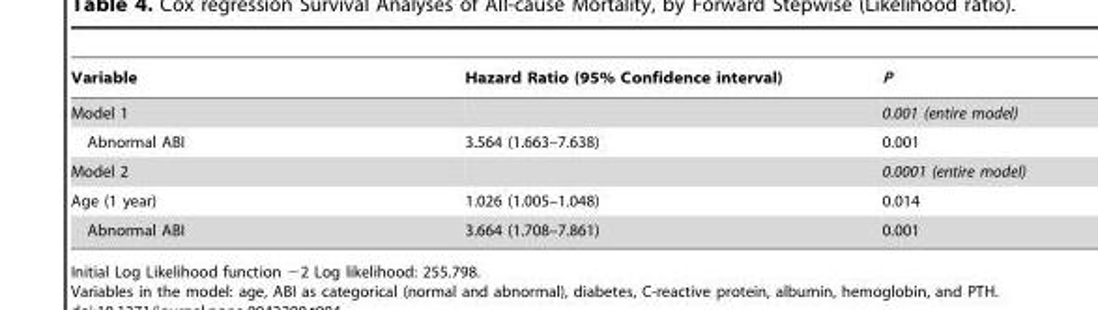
<table><thead><tr><td>Variable</td><td>Hazard Ratio (95% Confidence interval)</td><td>P</td></tr></thead><tbody><tr><td>Model 1</td><td></td><td>0.001 (entire model)</td></tr><tr><td>Abnormal ABI</td><td>3.564 (1.663–7.638)</td><td>0.001</td></tr><tr><td>Model 2</td><td></td><td>0.0001 (entire model)</td></tr><tr><td>Age (1 year)</td><td>1.026 (1.005–1.048)</td><td>0.014</td></tr><tr><td>Abnormal ABI</td><td>3.664 (1.708–7.861)</td><td>0.001</td></tr></tbody></table>